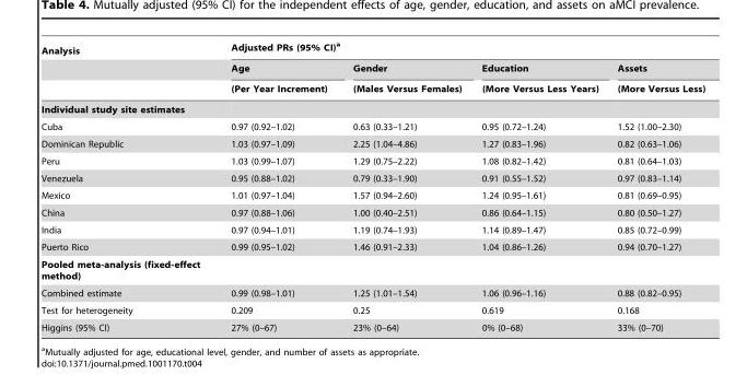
<table><thead><tr><td rowspan="3">Analysis</td><td colspan="4">Adjusted PRs (95% CI)<sup>a</sup></td></tr><tr><td rowspan="2">Age (Per Year Increment)</td><td rowspan="2">Gender (Males Versus Females)</td><td rowspan="2">Education (More Versus Less Years)</td><td rowspan="2">Assets (More Versus Less)</td></tr><tr></tr></thead><tbody><tr><td colspan="5">Individual study site estimates</td></tr><tr><td>Cuba</td><td>0.97 (0.92–1.02)</td><td>0.63 (0.33–1.21)</td><td>0.95 (0.72–1.24)</td><td>1.52 (1.00–2.30)</td></tr><tr><td>Dominican Republic</td><td>1.03 (0.97–1.09)</td><td>2.25 (1.04–4.86)</td><td>1.27 (0.83–1.96)</td><td>0.82 (0.63–1.06)</td></tr><tr><td>Peru</td><td>1.03 (0.99–1.07)</td><td>1.29 (0.75–2.22)</td><td>1.08 (0.82–1.42)</td><td>0.81 (0.64–1.03)</td></tr><tr><td>Venezuela</td><td>0.95 (0.88–1.02)</td><td>0.79 (0.33–1.90)</td><td>0.91 (0.55–1.52)</td><td>0.97 (0.83–1.14)</td></tr><tr><td>Mexico</td><td>1.01 (0.97–1.04)</td><td>1.57 (0.94–2.60)</td><td>1.24 (0.95–1.61)</td><td>0.81 (0.69–0.95)</td></tr><tr><td>China</td><td>0.97 (0.88–1.06)</td><td>1.00 (0.40–2.51)</td><td>0.86 (0.64–1.15)</td><td>0.80 (0.50–1.27)</td></tr><tr><td>India</td><td>0.97 (0.94–1.01)</td><td>1.19 (0.74–1.93)</td><td>1.14 (0.89–1.47)</td><td>0.85 (0.72–0.99)</td></tr><tr><td>Puerto Rico</td><td>0.99 (0.95–1.02)</td><td>1.46 (0.91–2.33)</td><td>1.04 (0.86–1.26)</td><td>0.94 (0.70–1.27)</td></tr><tr><td colspan="5">Pooled meta-analysis (fixed-effect method)</td></tr><tr><td>Combined estimate</td><td>0.99 (0.98–1.01)</td><td>1.25 (1.01–1.54)</td><td>1.06 (0.96–1.16)</td><td>0.88 (0.82–0.95)</td></tr><tr><td>Test for heterogeneity</td><td>0.209</td><td>0.25</td><td>0.619</td><td>0.168</td></tr><tr><td>Higgins (95% CI)</td><td>27% (0–67)</td><td>23% (0–64)</td><td>0% (0–68)</td><td>33% (0–70)</td></tr></tbody></table>